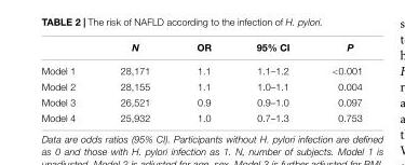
<table><thead><tr><td></td><td>N</td><td>OR</td><td>95% CI</td><td>P</td></tr></thead><tbody><tr><td>Model 1</td><td>28,171</td><td>1.1</td><td>1.1–1.2</td><td>&lt;0.001</td></tr><tr><td>Model 2</td><td>28,155</td><td>1.1</td><td>1.0–1.1</td><td>0.004</td></tr><tr><td>Model 3</td><td>26,521</td><td>0.9</td><td>0.9–1.0</td><td>0.097</td></tr><tr><td>Model 4</td><td>25,932</td><td>1.0</td><td>0.7–1.3</td><td>0.753</td></tr></tbody></table>